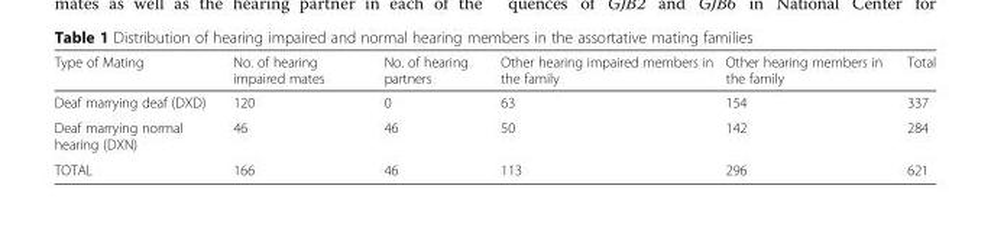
<table><thead><tr><td>Type of Mating</td><td>No. of hearing impaired mates</td><td>No. of hearing partners</td><td>Other hearing impaired members in the family</td><td>Other hearing members in the family</td><td>Total</td></tr></thead><tbody><tr><td>Deaf marrying deaf (DXD)</td><td>120</td><td>0</td><td>63</td><td>154</td><td>337</td></tr><tr><td>Deaf marrying normal hearing (DXN)</td><td>46</td><td>46</td><td>50</td><td>142</td><td>284</td></tr><tr><td>TOTAL</td><td>166</td><td>46</td><td>113</td><td>296</td><td>621</td></tr></tbody></table>